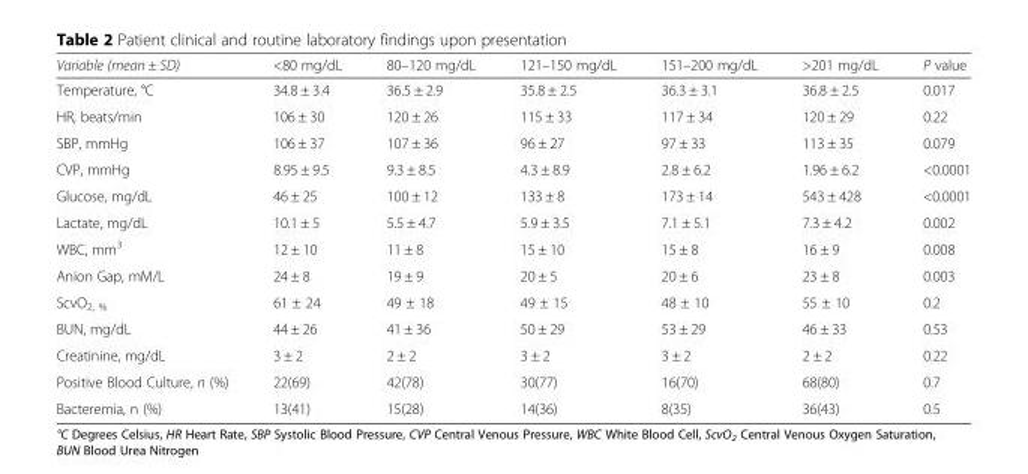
<table><thead><tr><td>Variable (mean ± SD)</td><td>&lt;80 mg/dL</td><td>80–120 mg/dL</td><td>121–150 mg/dL</td><td>151–200 mg/dL</td><td>&gt;201 mg/dL</td><td>P value</td></tr></thead><tbody><tr><td>Temperature, °C</td><td>34.8 ± 3.4</td><td>36.5 ± 2.9</td><td>35.8 ± 2.5</td><td>36.3 ± 3.1</td><td>36.8 ± 2.5</td><td>0.017</td></tr><tr><td>HR, beats/min</td><td>106 ± 30</td><td>120 ± 26</td><td>115 ± 33</td><td>117 ± 34</td><td>120 ± 29</td><td>0.22</td></tr><tr><td>SBP, mmHg</td><td>106 ± 37</td><td>107 ± 36</td><td>96 ± 27</td><td>97 ± 33</td><td>113 ± 35</td><td>0.079</td></tr><tr><td>CVP, mmHg</td><td>8.95 ± 9.5</td><td>9.3 ± 8.5</td><td>4.3 ± 8.9</td><td>2.8 ± 6.2</td><td>1.96 ± 6.2</td><td>&lt;0.0001</td></tr><tr><td>Glucose, mg/dL</td><td>46 ± 25</td><td>100 ± 12</td><td>133 ± 8</td><td>173 ± 14</td><td>543 ± 428</td><td>&lt;0.0001</td></tr><tr><td>Lactate, mg/dL</td><td>10.1 ± 5</td><td>5.5 ± 4.7</td><td>5.9 ± 3.5</td><td>7.1 ± 5.1</td><td>7.3 ± 4.2</td><td>0.002</td></tr><tr><td>WBC, mm<sup>3</sup></td><td>12 ± 10</td><td>11 ± 8</td><td>15 ± 10</td><td>15 ± 8</td><td>16 ± 9</td><td>0.008</td></tr><tr><td>Anion Gap, mM/L</td><td>24 ± 8</td><td>19 ± 9</td><td>20 ± 5</td><td>20 ± 6</td><td>23 ± 8</td><td>0.003</td></tr><tr><td>ScvO<sub>2, %</sub></td><td>61 ± 24</td><td>49 ± 18</td><td>49 ± 15</td><td>48 ± 10</td><td>55 ± 10</td><td>0.2</td></tr><tr><td>BUN, mg/dL</td><td>44 ± 26</td><td>41 ± 36</td><td>50 ± 29</td><td>53 ± 29</td><td>46 ± 33</td><td>0.53</td></tr><tr><td>Creatinine, mg/dL</td><td>3 ± 2</td><td>2 ± 2</td><td>3 ± 2</td><td>3 ± 2</td><td>2 ± 2</td><td>0.22</td></tr><tr><td>Positive Blood Culture, n (%)</td><td>22(69)</td><td>42(78)</td><td>30(77)</td><td>16(70)</td><td>68(80)</td><td>0.7</td></tr><tr><td>Bacteremia, n (%)</td><td>13(41)</td><td>15(28)</td><td>14(36)</td><td>8(35)</td><td>36(43)</td><td>0.5</td></tr></tbody></table>